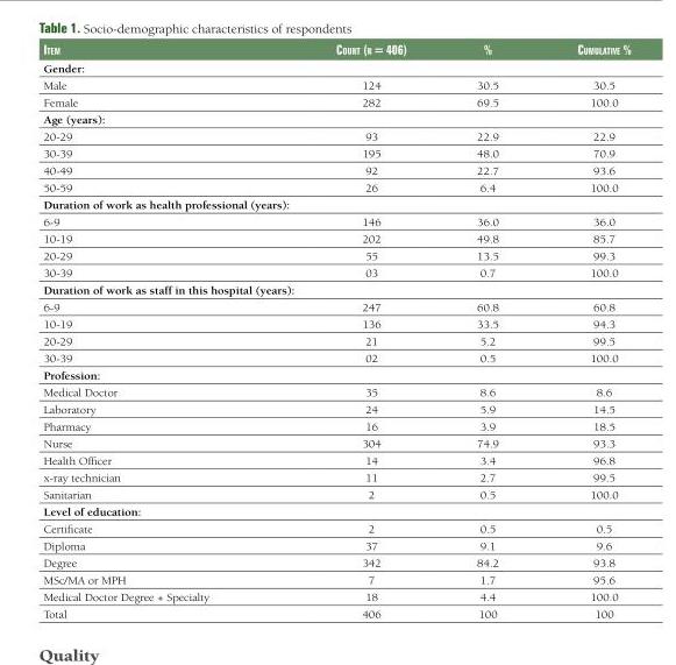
<table><thead><tr><td>Item</td><td>Count (n = 406)</td><td>%</td><td>CumulatIve %</td></tr></thead><tbody><tr><td colspan="4">Gender:</td></tr><tr><td>Male</td><td>124</td><td>30.5</td><td>30.5</td></tr><tr><td>Female</td><td>282</td><td>69.5</td><td>100.0</td></tr><tr><td colspan="4">Age (years):</td></tr><tr><td>20-29</td><td>93</td><td>22.9</td><td>22.9</td></tr><tr><td>30-39</td><td>195</td><td>48.0</td><td>70.9</td></tr><tr><td>40-49</td><td>92</td><td>22.7</td><td>93.6</td></tr><tr><td>50-59</td><td>26</td><td>6.4</td><td>100.0</td></tr><tr><td colspan="4">Duration of work as health professional (years):</td></tr><tr><td>6-9</td><td>146</td><td>36.0</td><td>36.0</td></tr><tr><td>10-19</td><td>202</td><td>49.8</td><td>85.7</td></tr><tr><td>20-29</td><td>55</td><td>13.5</td><td>99.3</td></tr><tr><td>30-39</td><td>03</td><td>0.7</td><td>100.0</td></tr><tr><td colspan="4">Duration of work as staff in this hospital (years):</td></tr><tr><td>6-9</td><td>247</td><td>60.8</td><td>60.8</td></tr><tr><td>10-19</td><td>136</td><td>33.5</td><td>94.3</td></tr><tr><td>20-29</td><td>21</td><td>5.2</td><td>99.5</td></tr><tr><td>30-39</td><td>02</td><td>0.5</td><td>100.0</td></tr><tr><td colspan="4">Profession:</td></tr><tr><td>Medical Doctor</td><td>35</td><td>8.6</td><td>8.6</td></tr><tr><td>Laboratory</td><td>24</td><td>5.9</td><td>14.5</td></tr><tr><td>Pharmacy</td><td>16</td><td>3.9</td><td>18.5</td></tr><tr><td>Nurse</td><td>304</td><td>74.9</td><td>93.3</td></tr><tr><td>Health Officer</td><td>14</td><td>3.4</td><td>96.8</td></tr><tr><td>x-ray technician</td><td>11</td><td>2.7</td><td>99.5</td></tr><tr><td>Sanitarian</td><td>2</td><td>0.5</td><td>100.0</td></tr><tr><td colspan="4">Level of education:</td></tr><tr><td>Certificate</td><td>2</td><td>0.5</td><td>0.5</td></tr><tr><td>Diploma</td><td>37</td><td>9.1</td><td>9.6</td></tr><tr><td>Degree</td><td>342</td><td>84.2</td><td>93.8</td></tr><tr><td>MSc/MA or MPH</td><td>7</td><td>1.7</td><td>95.6</td></tr><tr><td>Medical Doctor Degree + Specialty</td><td>18</td><td>4.4</td><td>100.0</td></tr><tr><td>Total</td><td>406</td><td>100</td><td>100</td></tr></tbody></table>